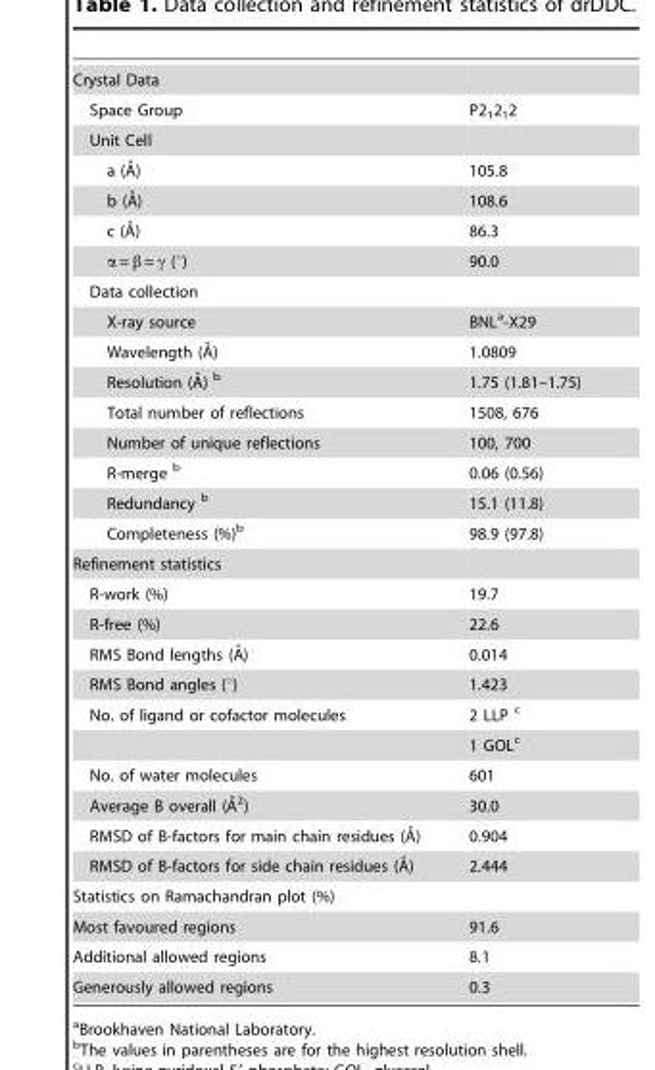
<table><tbody><tr><td colspan="2">Crystal Data</td></tr><tr><td>Space Group</td><td>P2<sub>1</sub>2<sub>1</sub>2</td></tr><tr><td colspan="2">Unit Cell</td></tr><tr><td>a (A˚)</td><td>105.8</td></tr><tr><td>b (A˚)</td><td>108.6</td></tr><tr><td>c (A˚)</td><td>86.3</td></tr><tr><td>α = β = γ (°)</td><td>90.0</td></tr><tr><td colspan="2">Data collection</td></tr><tr><td>X-ray source</td><td>BNL<sup>a</sup>-X29</td></tr><tr><td>Wavelength (A˚)</td><td>1.0809</td></tr><tr><td>Resolution (A˚) b</td><td>1.75 (1.81–1.75)</td></tr><tr><td>Total number of reflections</td><td>1508, 676</td></tr><tr><td>Number of unique reflections</td><td>100, 700</td></tr><tr><td>R-merge b</td><td>0.06 (0.56)</td></tr><tr><td>Redundancy b</td><td>15.1 (11.8)</td></tr><tr><td>Completeness (%)<sup>b</sup></td><td>98.9 (97.8)</td></tr><tr><td colspan="2">Refinement statistics</td></tr><tr><td>R-work (%)</td><td>19.7</td></tr><tr><td>R-free (%)</td><td>22.6</td></tr><tr><td>RMS Bond lengths (A˚)</td><td>0.014</td></tr><tr><td>RMS Bond angles (°)</td><td>1.423</td></tr><tr><td rowspan="2">No. of ligand or cofactor molecules</td><td>2 LLP c</td></tr><tr><td>1 GOL<sup>c</sup></td></tr><tr><td>No. of water molecules</td><td>601</td></tr><tr><td>Average B overall (A˚2)</td><td>30.0</td></tr><tr><td>RMSD of B-factors for main chain residues (A˚)</td><td>0.904</td></tr><tr><td>RMSD of B-factors for side chain residues (A˚)</td><td>2.444</td></tr><tr><td colspan="2">Statistics on Ramachandran plot (%)</td></tr><tr><td>Most favoured regions</td><td>91.6</td></tr><tr><td>Additional allowed regions</td><td>8.1</td></tr><tr><td>Generously allowed regions</td><td>0.3</td></tr></tbody></table>